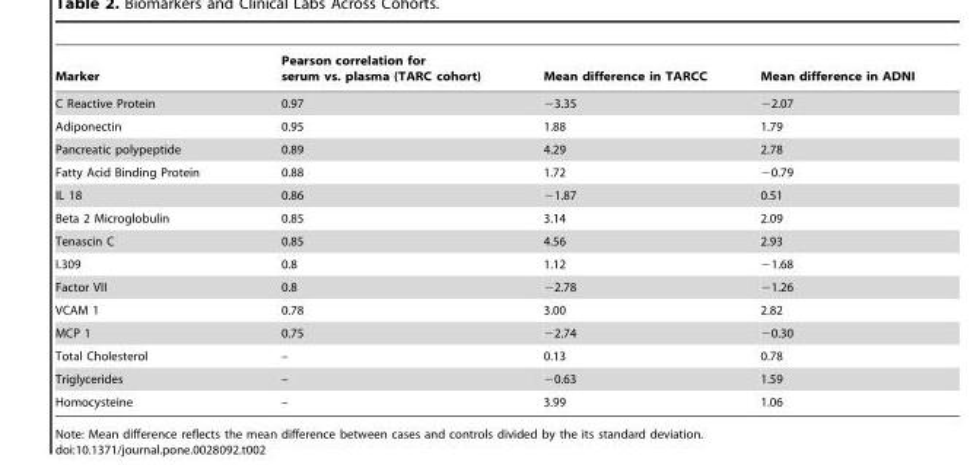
<table><thead><tr><td>Marker</td><td>Pearson correlation for serum vs. plasma (TARC cohort)</td><td>Mean difference in TARCC</td><td>Mean difference in ADNI</td></tr></thead><tbody><tr><td>C Reactive Protein</td><td>0.97</td><td>−3.35</td><td>−2.07</td></tr><tr><td>Adiponectin</td><td>0.95</td><td>1.88</td><td>1.79</td></tr><tr><td>Pancreatic polypeptide</td><td>0.89</td><td>4.29</td><td>2.78</td></tr><tr><td>Fatty Acid Binding Protein</td><td>0.88</td><td>1.72</td><td>−0.79</td></tr><tr><td>IL 18</td><td>0.86</td><td>−1.87</td><td>0.51</td></tr><tr><td>Beta 2 Microglobulin</td><td>0.85</td><td>3.14</td><td>2.09</td></tr><tr><td>Tenascin C</td><td>0.85</td><td>4.56</td><td>2.93</td></tr><tr><td>I.309</td><td>0.8</td><td>1.12</td><td>−1.68</td></tr><tr><td>Factor VII</td><td>0.8</td><td>−2.78</td><td>−1.26</td></tr><tr><td>VCAM 1</td><td>0.78</td><td>3.00</td><td>2.82</td></tr><tr><td>MCP 1</td><td>0.75</td><td>−2.74</td><td>−0.30</td></tr><tr><td>Total Cholesterol</td><td>–</td><td>0.13</td><td>0.78</td></tr><tr><td>Triglycerides</td><td>–</td><td>−0.63</td><td>1.59</td></tr><tr><td>Homocysteine</td><td>–</td><td>3.99</td><td>1.06</td></tr></tbody></table>